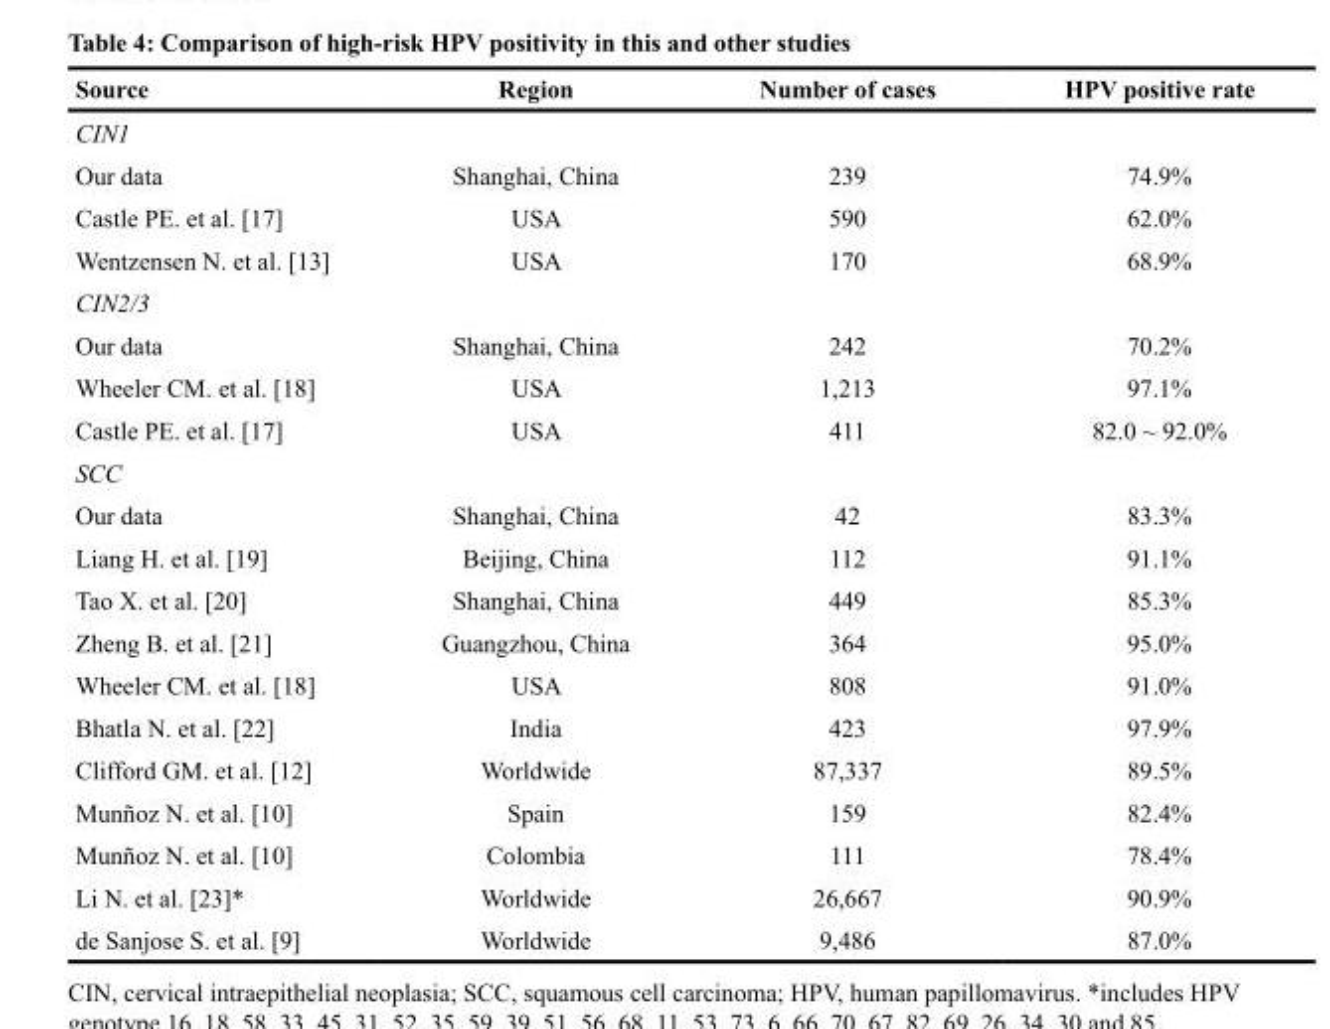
<table><thead><tr><td>Source</td><td>Region</td><td>Number of cases</td><td>HPV positive rate</td></tr></thead><tbody><tr><td colspan="4">CIN1</td></tr><tr><td>Our data</td><td>Shanghai, China</td><td>239</td><td>74.9%</td></tr><tr><td>Castle PE. et al. [17]</td><td>USA</td><td>590</td><td>62.0%</td></tr><tr><td>Wentzensen N. et al. [13]</td><td>USA</td><td>170</td><td>68.9%</td></tr><tr><td colspan="4">CIN2/3</td></tr><tr><td>Our data</td><td>Shanghai, China</td><td>242</td><td>70.2%</td></tr><tr><td>Wheeler CM. et al. [18]</td><td>USA</td><td>1,213</td><td>97.1%</td></tr><tr><td>Castle PE. et al. [17]</td><td>USA</td><td>411</td><td>82.0 ~ 92.0%</td></tr><tr><td colspan="4">SCC</td></tr><tr><td>Our data</td><td>Shanghai, China</td><td>42</td><td>83.3%</td></tr><tr><td>Liang H. et al. [19]</td><td>Beijing, China</td><td>112</td><td>91.1%</td></tr><tr><td>Tao X. et al. [20]</td><td>Shanghai, China</td><td>449</td><td>85.3%</td></tr><tr><td>Zheng B. et al. [21]</td><td>Guangzhou, China</td><td>364</td><td>95.0%</td></tr><tr><td>Wheeler CM. et al. [18]</td><td>USA</td><td>808</td><td>91.0%</td></tr><tr><td>Bhatla N. et al. [22]</td><td>India</td><td>423</td><td>97.9%</td></tr><tr><td>Clifford GM. et al. [12]</td><td>Worldwide</td><td>87,337</td><td>89.5%</td></tr><tr><td>Munñoz N. et al. [10]</td><td>Spain</td><td>159</td><td>82.4%</td></tr><tr><td>Munñoz N. et al. [10]</td><td>Colombia</td><td>111</td><td>78.4%</td></tr><tr><td>Li N. et al. [23]*</td><td>Worldwide</td><td>26,667</td><td>90.9%</td></tr><tr><td>de Sanjose S. et al. [9]</td><td>Worldwide</td><td>9,486</td><td>87.0%</td></tr></tbody></table>